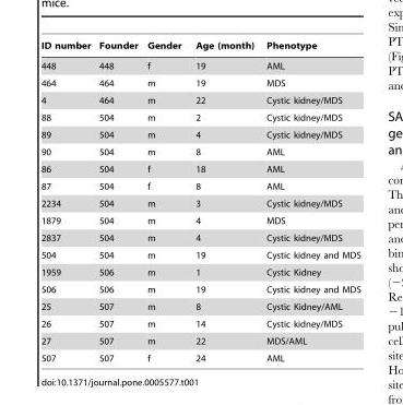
<table><thead><tr><td>ID number</td><td>Founder</td><td>Gender</td><td>Age (month)</td><td>Phenotype</td></tr></thead><tbody><tr><td>448</td><td>448</td><td>f</td><td>19</td><td>AML</td></tr><tr><td>464</td><td>464</td><td>m</td><td>19</td><td>MDS</td></tr><tr><td>4</td><td>464</td><td>m</td><td>22</td><td>Cystic kidney/MDS</td></tr><tr><td>88</td><td>504</td><td>m</td><td>2</td><td>Cystic kidney/MDS</td></tr><tr><td>89</td><td>504</td><td>m</td><td>4</td><td>Cystic kidney/MDS</td></tr><tr><td>90</td><td>504</td><td>m</td><td>8</td><td>AML</td></tr><tr><td>86</td><td>504</td><td>f</td><td>18</td><td>AML</td></tr><tr><td>87</td><td>504</td><td>f</td><td>8</td><td>AML</td></tr><tr><td>2234</td><td>504</td><td>m</td><td>3</td><td>Cystic kidney/MDS</td></tr><tr><td>1879</td><td>504</td><td>m</td><td>4</td><td>MDS</td></tr><tr><td>2837</td><td>504</td><td>m</td><td>4</td><td>Cystic kidney/MDS</td></tr><tr><td>504</td><td>504</td><td>m</td><td>19</td><td>Cystic kidney and MDS</td></tr><tr><td>1959</td><td>506</td><td>m</td><td>1</td><td>Cystic Kidney</td></tr><tr><td>506</td><td>506</td><td>m</td><td>19</td><td>Cystic kidney and MDS</td></tr><tr><td>25</td><td>507</td><td>m</td><td>8</td><td>Cystic Kidney/AML</td></tr><tr><td>26</td><td>507</td><td>m</td><td>14</td><td>Cystic kidney/MDS</td></tr><tr><td>27</td><td>507</td><td>m</td><td>22</td><td>MDS/AML</td></tr><tr><td>507</td><td>507</td><td>f</td><td>24</td><td>AML</td></tr></tbody></table>